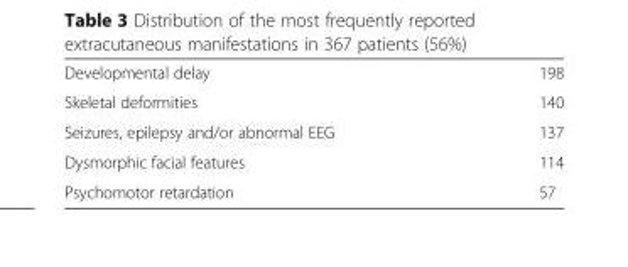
<table><tbody><tr><td>Developmental delay</td><td>198</td></tr><tr><td>Skeletal deformities</td><td>140</td></tr><tr><td>Seizures, epilepsy and/or abnormal EEG</td><td>137</td></tr><tr><td>Dysmorphic facial features</td><td>114</td></tr><tr><td>Psychomotor retardation</td><td>57</td></tr></tbody></table>